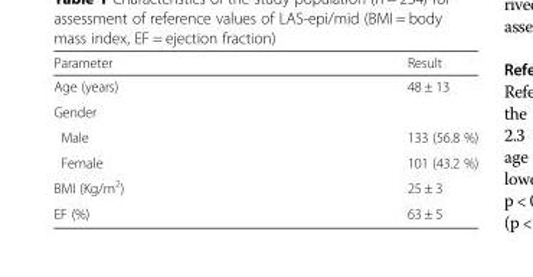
<table><thead><tr><td>Parameter</td><td>Result</td></tr></thead><tbody><tr><td>Age (years)</td><td>48 ± 13</td></tr><tr><td colspan="2">Gender</td></tr><tr><td>Male</td><td>133 (56.8 %)</td></tr><tr><td>Female</td><td>101 (43.2 %)</td></tr><tr><td>BMI (Kg/m<sup>2</sup>)</td><td>25 ± 3</td></tr><tr><td>EF (%)</td><td>63 ± 5</td></tr></tbody></table>